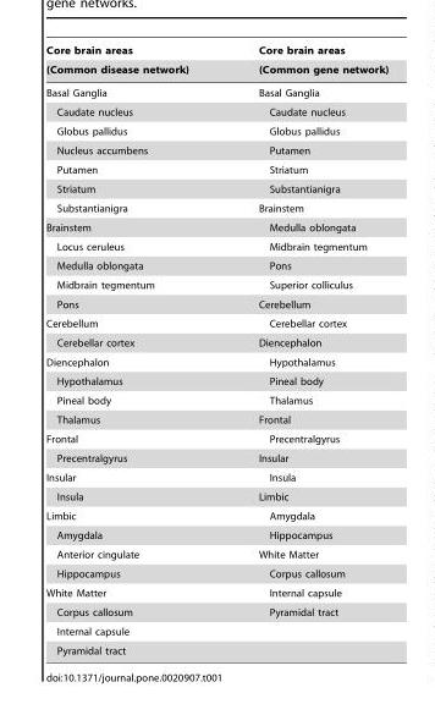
<table><thead><tr><td rowspan="2">Core brain areas (Common disease network)</td><td rowspan="2">Core brain areas (Common gene network)</td></tr><tr></tr></thead><tbody><tr><td>Basal Ganglia</td><td>Basal Ganglia</td></tr><tr><td>Caudate nucleus</td><td>Caudate nucleus</td></tr><tr><td>Globus pallidus</td><td>Globus pallidus</td></tr><tr><td>Nucleus accumbens</td><td>Putamen</td></tr><tr><td>Putamen</td><td>Striatum</td></tr><tr><td>Striatum</td><td>Substantianigra</td></tr><tr><td>Substantianigra</td><td>Brainstem</td></tr><tr><td>Brainstem</td><td>Medulla oblongata</td></tr><tr><td>Locus ceruleus</td><td>Midbrain tegmentum</td></tr><tr><td>Medulla oblongata</td><td>Pons</td></tr><tr><td>Midbrain tegmentum</td><td>Superior colliculus</td></tr><tr><td>Pons</td><td>Cerebellum</td></tr><tr><td>Cerebellum</td><td>Cerebellar cortex</td></tr><tr><td>Cerebellar cortex</td><td>Diencephalon</td></tr><tr><td>Diencephalon</td><td>Hypothalamus</td></tr><tr><td>Hypothalamus</td><td>Pineal body</td></tr><tr><td>Pineal body</td><td>Thalamus</td></tr><tr><td>Thalamus</td><td>Frontal</td></tr><tr><td>Frontal</td><td>Precentralgyrus</td></tr><tr><td>Precentralgyrus</td><td>Insular</td></tr><tr><td>Insular</td><td>Insula</td></tr><tr><td>Insula</td><td>Limbic</td></tr><tr><td>Limbic</td><td>Amygdala</td></tr><tr><td>Amygdala</td><td>Hippocampus</td></tr><tr><td>Anterior cingulate</td><td>White Matter</td></tr><tr><td>Hippocampus</td><td>Corpus callosum</td></tr><tr><td>White Matter</td><td>Internal capsule</td></tr><tr><td>Corpus callosum</td><td>Pyramidal tract</td></tr><tr><td colspan="2">Internal capsule</td></tr><tr><td>Pyramidal tract</td><td></td></tr></tbody></table>